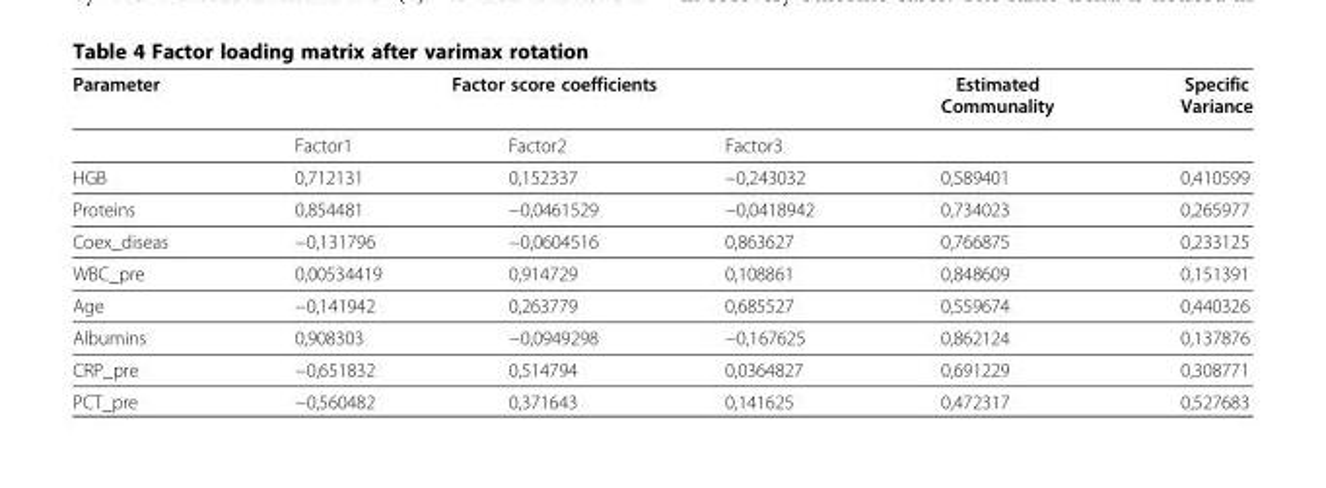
<table><thead><tr><td rowspan="2">Parameter</td><td colspan="3">Factor score coefficients</td><td rowspan="2">Estimated Communality</td><td rowspan="2">Specific Variance</td></tr><tr><td>Factor1</td><td>Factor2</td><td>Factor3</td></tr></thead><tbody><tr><td>HGB</td><td>0,712131</td><td>0,152337</td><td>−0,243032</td><td>0,589401</td><td>0,410599</td></tr><tr><td>Proteins</td><td>0,854481</td><td>−0,0461529</td><td>−0,0418942</td><td>0,734023</td><td>0,265977</td></tr><tr><td>Coex_diseas</td><td>−0,131796</td><td>−0,0604516</td><td>0,863627</td><td>0,766875</td><td>0,233125</td></tr><tr><td>WBC_pre</td><td>0,00534419</td><td>0,914729</td><td>0,108861</td><td>0,848609</td><td>0,151391</td></tr><tr><td>Age</td><td>−0,141942</td><td>0,263779</td><td>0,685527</td><td>0,559674</td><td>0,440326</td></tr><tr><td>Albumins</td><td>0,908303</td><td>−0,0949298</td><td>−0,167625</td><td>0,862124</td><td>0,137876</td></tr><tr><td>CRP_pre</td><td>−0,651832</td><td>0,514794</td><td>0,0364827</td><td>0,691229</td><td>0,308771</td></tr><tr><td>PCT_pre</td><td>−0,560482</td><td>0,371643</td><td>0,141625</td><td>0,472317</td><td>0,527683</td></tr></tbody></table>